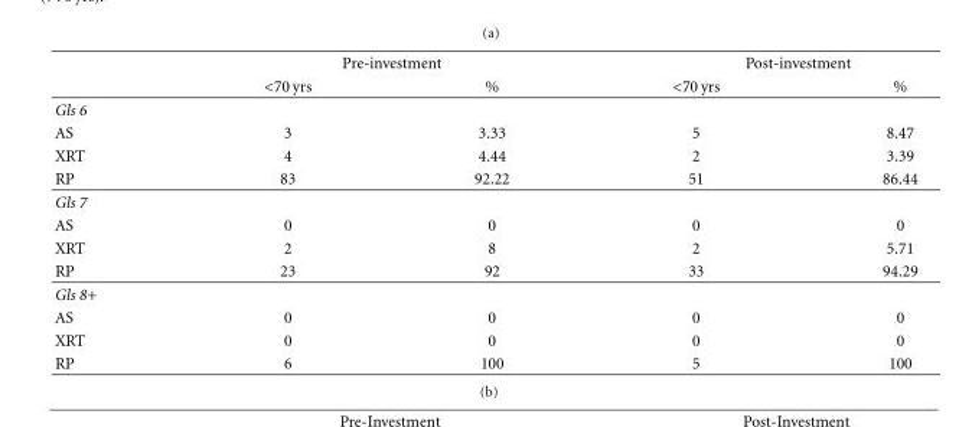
<table><thead><tr><td rowspan="2"></td><td colspan="2">Pre-investment</td><td colspan="2">Post-investment</td></tr><tr><td>&lt;70 yrs</td><td>%</td><td>&lt;70 yrs</td><td>%</td></tr></thead><tbody><tr><td colspan="5">Gls 6</td></tr><tr><td>AS</td><td>3</td><td>3.33</td><td>5</td><td>8.47</td></tr><tr><td>XRT</td><td>4</td><td>4.44</td><td>2</td><td>3.39</td></tr><tr><td>RP</td><td>83</td><td>92.22</td><td>51</td><td>86.44</td></tr><tr><td colspan="5">Gls 7</td></tr><tr><td>AS</td><td>0</td><td>0</td><td>0</td><td>0</td></tr><tr><td>XRT</td><td>2</td><td>8</td><td>2</td><td>5.71</td></tr><tr><td>RP</td><td>23</td><td>92</td><td>33</td><td>94.29</td></tr><tr><td colspan="5">Gls 8+</td></tr><tr><td>AS</td><td>0</td><td>0</td><td>0</td><td>0</td></tr><tr><td>XRT</td><td>0</td><td>0</td><td>0</td><td>0</td></tr><tr><td>RP</td><td>6</td><td>100</td><td>5</td><td>100</td></tr></tbody></table>